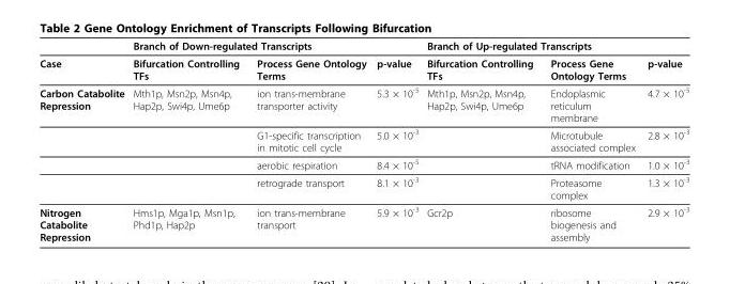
<table><thead><tr><td rowspan="2">Case</td><td colspan="3">Branch of Down-regulated Transcripts</td><td colspan="3">Branch of Up-regulated Transcripts</td></tr><tr><td>Bifurcation Controlling TFs</td><td>Process Gene Ontology Terms</td><td>p-value</td><td>Bifurcation Controlling TFs</td><td>Process Gene Ontology Terms</td><td>p-value</td></tr></thead><tbody><tr><td rowspan="4">Carbon Catabolite Repression</td><td>Mth1p, Msn2p, Msn4p, Hap2p, Swi4p, Ume6p</td><td>ion trans-membrane transporter activity</td><td>5.3 × 10<sup>-5</sup></td><td>Mth1p, Msn2p, Msn4p, Hap2p, Swi4p, Ume6p</td><td>Endoplasmic reticulum membrane</td><td>4.7 × 10<sup>-5</sup></td></tr><tr><td></td><td>G1-specific transcription in mitotic cell cycle</td><td>5.0 × 10<sup>-3</sup></td><td></td><td>Microtubule associated complex</td><td>2.8 × 10<sup>-3</sup></td></tr><tr><td></td><td>aerobic respiration</td><td>8.4 × 10<sup>-5</sup></td><td></td><td>tRNA modification</td><td>1.0 × 10<sup>-3</sup></td></tr><tr><td></td><td>retrograde transport</td><td>8.1 × 10<sup>-3</sup></td><td></td><td>Proteasome complex</td><td>1.3 × 10<sup>-3</sup></td></tr><tr><td>Nitrogen Catabolite Repression</td><td>Hms1p, Mga1p, Msn1p, Phd1p, Hap2p</td><td>ion trans-membrane transport</td><td>5.9 × 10<sup>-3</sup></td><td>Gcr2p</td><td>ribosome biogenesis and assembly</td><td>2.9 × 10<sup>-3</sup></td></tr></tbody></table>